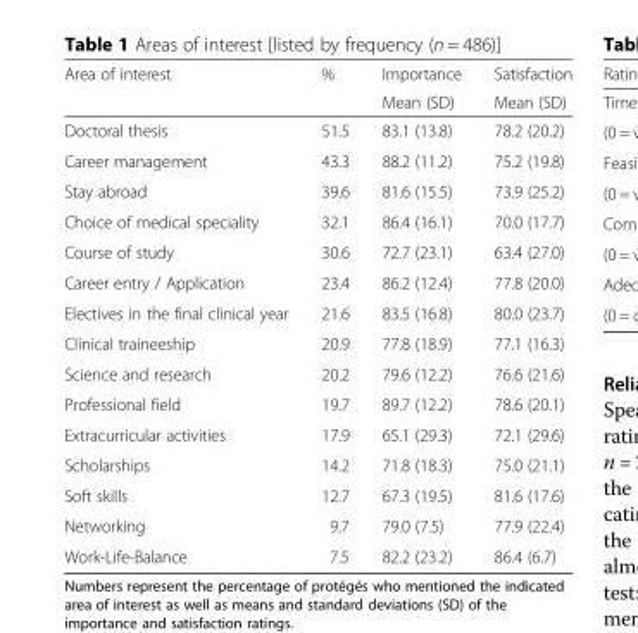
<table><thead><tr><td rowspan="2">Area of interest</td><td rowspan="2">%</td><td rowspan="2">Importance Mean (SD)</td><td rowspan="2">Satisfaction Mean (SD)</td></tr><tr></tr></thead><tbody><tr><td>Doctoral thesis</td><td>51.5</td><td>83.1 (13.8)</td><td>78.2 (20.2)</td></tr><tr><td>Career management</td><td>43.3</td><td>88.2 (11.2)</td><td>75.2 (19.8)</td></tr><tr><td>Stay abroad</td><td>39.6</td><td>81.6 (15.5)</td><td>73.9 (25.2)</td></tr><tr><td>Choice of medical speciality</td><td>32.1</td><td>86.4 (16.1)</td><td>70.0 (17.7)</td></tr><tr><td>Course of study</td><td>30.6</td><td>72.7 (23.1)</td><td>63.4 (27.0)</td></tr><tr><td>Career entry / Application</td><td>23.4</td><td>86.2 (12.4)</td><td>77.8 (20.0)</td></tr><tr><td>Electives in the final clinical year</td><td>21.6</td><td>83.5 (16.8)</td><td>80.0 (23.7)</td></tr><tr><td>Clinical traineeship</td><td>20.9</td><td>77.8 (18.9)</td><td>77.1 (16.3)</td></tr><tr><td>Science and research</td><td>20.2</td><td>79.6 (12.2)</td><td>76.6 (21.6)</td></tr><tr><td>Professional field</td><td>19.7</td><td>89.7 (12.2)</td><td>78.6 (20.1)</td></tr><tr><td>Extracurricular activities</td><td>17.9</td><td>65.1 (29.3)</td><td>72.1 (29.6)</td></tr><tr><td>Scholarships</td><td>14.2</td><td>71.8 (18.3)</td><td>75.0 (21.1)</td></tr><tr><td>Soft skills</td><td>12.7</td><td>67.3 (19.5)</td><td>81.6 (17.6)</td></tr><tr><td>Networking</td><td>9.7</td><td>79.0 (7.5)</td><td>77.9 (22.4)</td></tr><tr><td>Work-Life-Balance</td><td>7.5</td><td>82.2 (23.2)</td><td>86.4 (6.7)</td></tr></tbody></table>